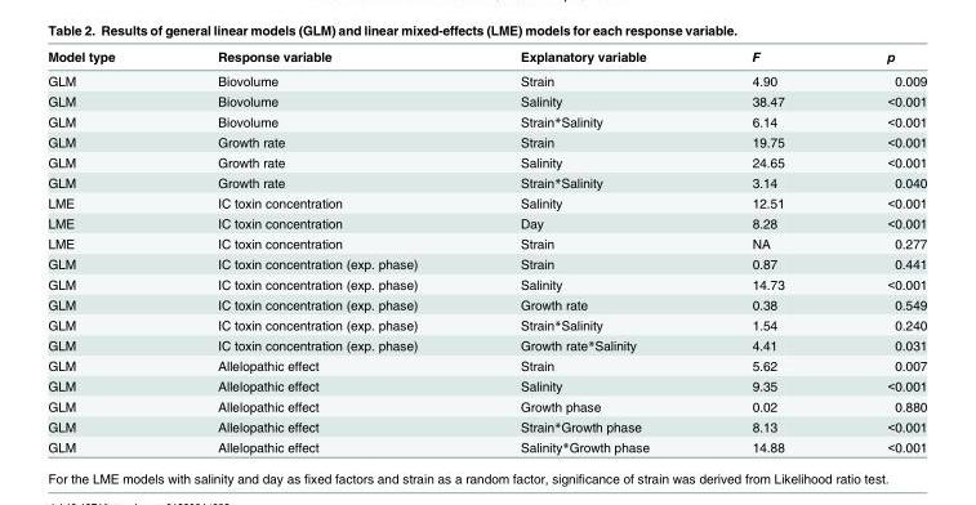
<table><thead><tr><td>Model type</td><td>Response variable</td><td>Explanatory variable</td><td>F</td><td>p</td></tr></thead><tbody><tr><td>GLM</td><td>Biovolume</td><td>Strain</td><td>4.90</td><td>0.009</td></tr><tr><td>GLM</td><td>Biovolume</td><td>Salinity</td><td>38.47</td><td>&lt;0.001</td></tr><tr><td>GLM</td><td>Biovolume</td><td>Strain*Salinity</td><td>6.14</td><td>&lt;0.001</td></tr><tr><td>GLM</td><td>Growth rate</td><td>Strain</td><td>19.75</td><td>&lt;0.001</td></tr><tr><td>GLM</td><td>Growth rate</td><td>Salinity</td><td>24.65</td><td>&lt;0.001</td></tr><tr><td>GLM</td><td>Growth rate</td><td>Strain*Salinity</td><td>3.14</td><td>0.040</td></tr><tr><td>LME</td><td>IC toxin concentration</td><td>Salinity</td><td>12.51</td><td>&lt;0.001</td></tr><tr><td>LME</td><td>IC toxin concentration</td><td>Day</td><td>8.28</td><td>&lt;0.001</td></tr><tr><td>LME</td><td>IC toxin concentration</td><td>Strain</td><td>NA</td><td>0.277</td></tr><tr><td>GLM</td><td>IC toxin concentration (exp. phase)</td><td>Strain</td><td>0.87</td><td>0.441</td></tr><tr><td>GLM</td><td>IC toxin concentration (exp. phase)</td><td>Salinity</td><td>14.73</td><td>&lt;0.001</td></tr><tr><td>GLM</td><td>IC toxin concentration (exp. phase)</td><td>Growth rate</td><td>0.38</td><td>0.549</td></tr><tr><td>GLM</td><td>IC toxin concentration (exp. phase)</td><td>Strain*Salinity</td><td>1.54</td><td>0.240</td></tr><tr><td>GLM</td><td>IC toxin concentration (exp. phase)</td><td>Growth rate*Salinity</td><td>4.41</td><td>0.031</td></tr><tr><td>GLM</td><td>Allelopathic effect</td><td>Strain</td><td>5.62</td><td>0.007</td></tr><tr><td>GLM</td><td>Allelopathic effect</td><td>Salinity</td><td>9.35</td><td>&lt;0.001</td></tr><tr><td>GLM</td><td>Allelopathic effect</td><td>Growth phase</td><td>0.02</td><td>0.880</td></tr><tr><td>GLM</td><td>Allelopathic effect</td><td>Strain*Growth phase</td><td>8.13</td><td>&lt;0.001</td></tr><tr><td>GLM</td><td>Allelopathic effect</td><td>Salinity*Growth phase</td><td>14.88</td><td>&lt;0.001</td></tr></tbody></table>